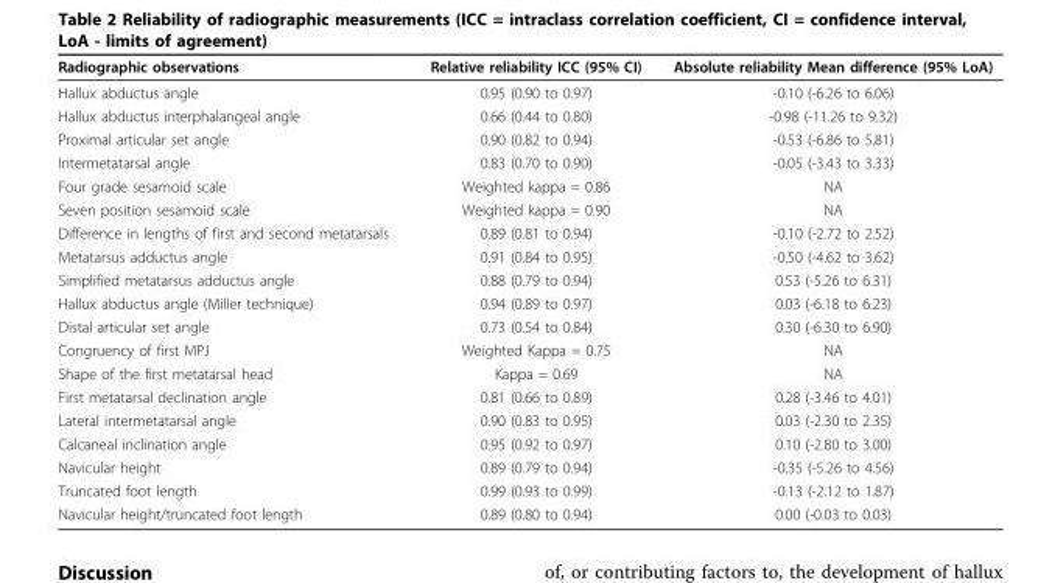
<table><thead><tr><td>Radiographic observations</td><td>Relative reliability ICC (95% CI)</td><td>Absolute reliability Mean difference (95% LoA)</td></tr></thead><tbody><tr><td>Hallux abductus angle</td><td>0.95 (0.90 to 0.97)</td><td>-0.10 (-6.26 to 6.06)</td></tr><tr><td>Hallux abductus interphalangeal angle</td><td>0.66 (0.44 to 0.80)</td><td>-0.98 (-11.26 to 9.32)</td></tr><tr><td>Proximal articular set angle</td><td>0.90 (0.82 to 0.94)</td><td>-0.53 (-6.86 to 5.81)</td></tr><tr><td>Intermetatarsal angle</td><td>0.83 (0.70 to 0.90)</td><td>-0.05 (-3.43 to 3.33)</td></tr><tr><td>Four grade sesamoid scale</td><td>Weighted kappa = 0.86</td><td>NA</td></tr><tr><td>Seven position sesamoid scale</td><td>Weighted kappa = 0.90</td><td>NA</td></tr><tr><td>Difference in lengths of first and second metatarsals</td><td>0.89 (0.81 to 0.94)</td><td>-0.10 (-2.72 to 2.52)</td></tr><tr><td>Metatarsus adductus angle</td><td>0.91 (0.84 to 0.95)</td><td>-0.50 (-4.62 to 3.62)</td></tr><tr><td>Simplified metatarsus adductus angle</td><td>0.88 (0.79 to 0.94)</td><td>0.53 (-5.26 to 6.31)</td></tr><tr><td>Hallux abductus angle (Miller technique)</td><td>0.94 (0.89 to 0.97)</td><td>0.03 (-6.18 to 6.23)</td></tr><tr><td>Distal articular set angle</td><td>0.73 (0.54 to 0.84)</td><td>0.30 (-6.30 to 6.90)</td></tr><tr><td>Congruency of first MPJ</td><td>Weighted Kappa = 0.75</td><td>NA</td></tr><tr><td>Shape of the first metatarsal head</td><td>Kappa = 0.69</td><td>NA</td></tr><tr><td>First metatarsal declination angle</td><td>0.81 (0.66 to 0.89)</td><td>0.28 (-3.46 to 4.01)</td></tr><tr><td>Lateral intermetatarsal angle</td><td>0.90 (0.83 to 0.95)</td><td>0.03 (-2.30 to 2.35)</td></tr><tr><td>Calcaneal inclination angle</td><td>0.95 (0.92 to 0.97)</td><td>0.10 (-2.80 to 3.00)</td></tr><tr><td>Navicular height</td><td>0.89 (0.79 to 0.94)</td><td>-0.35 (-5.26 to 4.56)</td></tr><tr><td>Truncated foot length</td><td>0.99 (0.93 to 0.99)</td><td>-0.13 (-2.12 to 1.87)</td></tr><tr><td>Navicular height/truncated foot length</td><td>0.89 (0.80 to 0.94)</td><td>0.00 (-0.03 to 0.03)</td></tr></tbody></table>